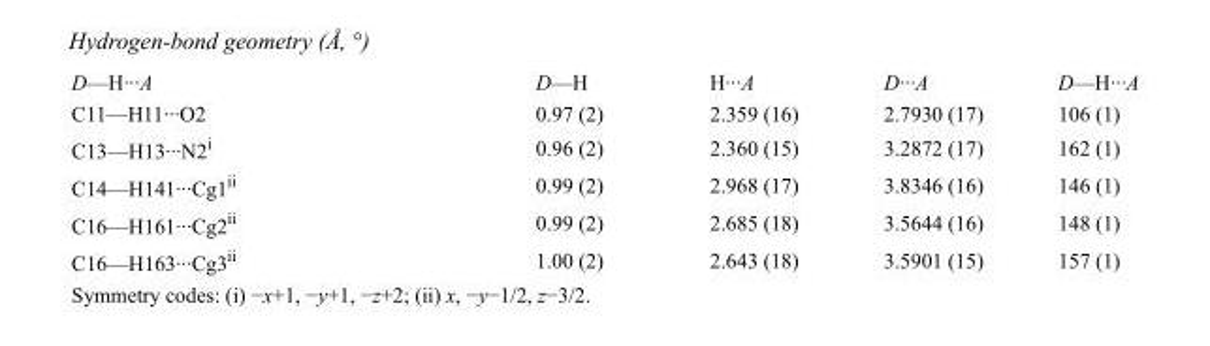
<table><tbody><tr><td>D—H···A</td><td>D—H</td><td>H···A</td><td>D···A</td><td>D—H···A</td></tr><tr><td>C11—H11···O2</td><td>0.97 (2)</td><td>2.359 (16)</td><td>2.7930 (17)</td><td>106 (1)</td></tr><tr><td>C13—H13···N2<sup>i</sup></td><td>0.96 (2)</td><td>2.360 (15)</td><td>3.2872 (17)</td><td>162 (1)</td></tr><tr><td>C14—H141···Cg1<sup>ii</sup></td><td>0.99 (2)</td><td>2.968 (17)</td><td>3.8346 (16)</td><td>146 (1)</td></tr><tr><td>C16—H161···Cg2<sup>ii</sup></td><td>0.99 (2)</td><td>2.685 (18)</td><td>3.5644 (16)</td><td>148 (1)</td></tr><tr><td>C16—H163···Cg3<sup>ii</sup></td><td>1.00 (2)</td><td>2.643 (18)</td><td>3.5901 (15)</td><td>157 (1)</td></tr></tbody></table>